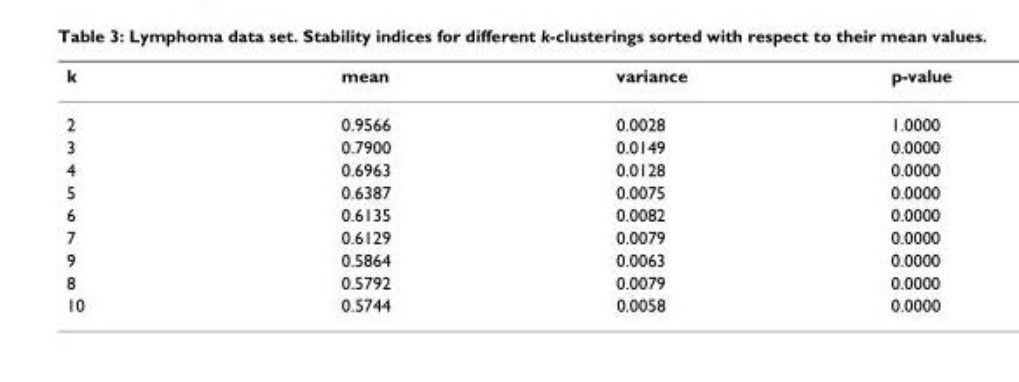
<table><thead><tr><td>k</td><td>mean</td><td>variance</td><td>p-value</td></tr></thead><tbody><tr><td>2</td><td>0.9566</td><td>0.0028</td><td>1.0000</td></tr><tr><td>3</td><td>0.7900</td><td>0.0149</td><td>0.0000</td></tr><tr><td>4</td><td>0.6963</td><td>0.0128</td><td>0.0000</td></tr><tr><td>5</td><td>0.6387</td><td>0.0075</td><td>0.0000</td></tr><tr><td>6</td><td>0.6135</td><td>0.0082</td><td>0.0000</td></tr><tr><td>7</td><td>0.6129</td><td>0.0079</td><td>0.0000</td></tr><tr><td>9</td><td>0.5864</td><td>0.0063</td><td>0.0000</td></tr><tr><td>8</td><td>0.5792</td><td>0.0079</td><td>0.0000</td></tr><tr><td>10</td><td>0.5744</td><td>0.0058</td><td>0.0000</td></tr></tbody></table>